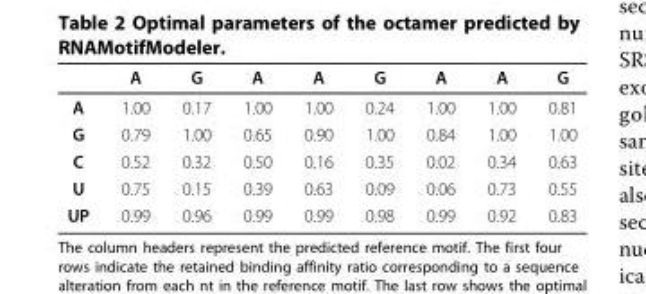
<table><thead><tr><td></td><td>A</td><td>G</td><td>A</td><td>A</td><td>G</td><td>A</td><td>A</td><td>G</td></tr></thead><tbody><tr><td>A</td><td>1.00</td><td>0.17</td><td>1.00</td><td>1.00</td><td>0.24</td><td>1.00</td><td>1.00</td><td>0.81</td></tr><tr><td>G</td><td>0.79</td><td>1.00</td><td>0.65</td><td>0.90</td><td>1.00</td><td>0.84</td><td>1.00</td><td>1.00</td></tr><tr><td>C</td><td>0.52</td><td>0.32</td><td>0.50</td><td>0.16</td><td>0.35</td><td>0.02</td><td>0.34</td><td>0.63</td></tr><tr><td>U</td><td>0.75</td><td>0.15</td><td>0.39</td><td>0.63</td><td>0.09</td><td>0.06</td><td>0.73</td><td>0.55</td></tr><tr><td>UP</td><td>0.99</td><td>0.96</td><td>0.99</td><td>0.99</td><td>0.98</td><td>0.99</td><td>0.92</td><td>0.83</td></tr></tbody></table>